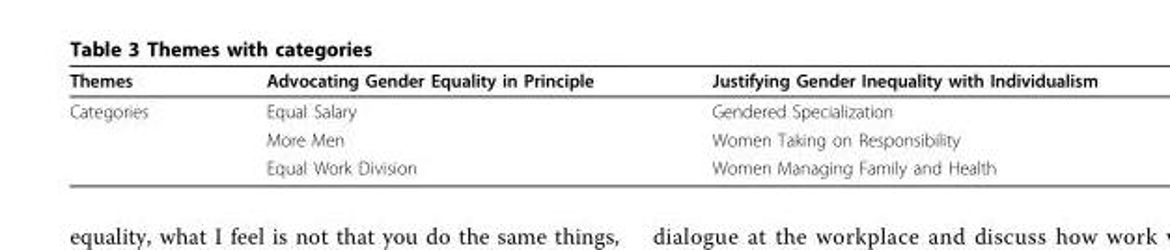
<table><thead><tr><td>Themes</td><td>Advocating Gender Equality in Principle</td><td>Justifying Gender Inequality with Individualism</td></tr></thead><tbody><tr><td rowspan="3">Categories</td><td>Equal Salary</td><td>Gendered Specialization</td></tr><tr><td>More Men</td><td>Women Taking on Responsibility</td></tr><tr><td>Equal Work Division</td><td>Women Managing Family and Health</td></tr></tbody></table>